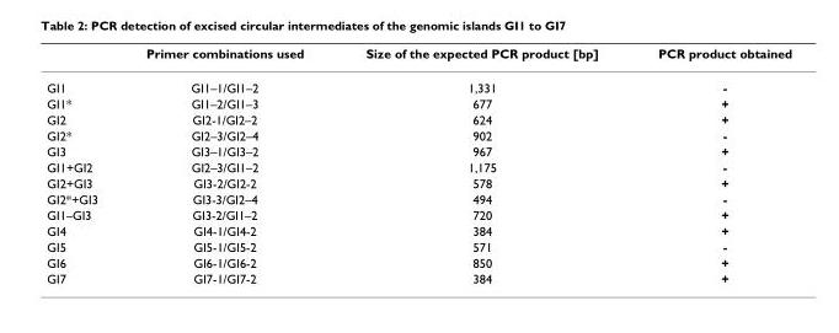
<table><thead><tr><td></td><td>Primer combinations used</td><td>Size of the expected PCR product [bp]</td><td>PCR product obtained</td></tr></thead><tbody><tr><td>GI1</td><td>GI1–1/GI1–2</td><td>1,331</td><td>-</td></tr><tr><td>GI1*</td><td>GI1–2/GI1–3</td><td>677</td><td>+</td></tr><tr><td>GI2</td><td>GI2-1/GI2–2</td><td>624</td><td>+</td></tr><tr><td>GI2*</td><td>GI2–3/GI2–4</td><td>902</td><td>-</td></tr><tr><td>GI3</td><td>GI3–1/GI3–2</td><td>967</td><td>+</td></tr><tr><td>GI1+GI2</td><td>GI2–3/GI1–2</td><td>1,175</td><td>-</td></tr><tr><td>GI2+GI3</td><td>GI3-2/GI2-2</td><td>578</td><td>+</td></tr><tr><td>GI2*+GI3</td><td>GI3-3/GI2–4</td><td>494</td><td>-</td></tr><tr><td>GI1–GI3</td><td>GI3-2/GI1–2</td><td>720</td><td>+</td></tr><tr><td>GI4</td><td>GI4-1/GI4-2</td><td>384</td><td>+</td></tr><tr><td>GI5</td><td>GI5-1/GI5-2</td><td>571</td><td>-</td></tr><tr><td>GI6</td><td>GI6-1/GI6-2</td><td>850</td><td>+</td></tr><tr><td>GI7</td><td>GI7-1/GI7-2</td><td>384</td><td>+</td></tr></tbody></table>